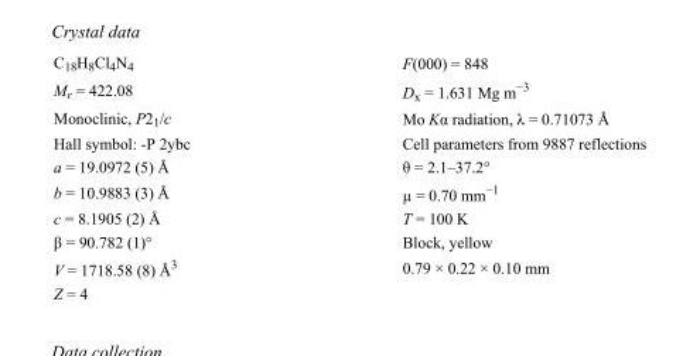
<table><tbody><tr><td>C<sub>18</sub>H<sub>8</sub>Cl<sub>4</sub>N<sub>4</sub></td><td>F(000) = 848</td></tr><tr><td>M<sub>r</sub> = 422.08</td><td>D<sub>x</sub> = 1.631 Mg m<sup>−3</sup></td></tr><tr><td>Monoclinic, P2<sub>1</sub>/c</td><td>Mo Kα radiation, λ = 0.71073 Å</td></tr><tr><td>Hall symbol: -P 2ybc</td><td>Cell parameters from 9887 reflections</td></tr><tr><td>a = 19.0972 (5) Å</td><td>θ = 2.1–37.2°</td></tr><tr><td>b = 10.9883 (3) Å</td><td>µ = 0.70 mm<sup>−1</sup></td></tr><tr><td>c = 8.1905 (2) Å</td><td>T = 100 K</td></tr><tr><td>β = 90.782 (1)°</td><td>Block, yellow</td></tr><tr><td>V = 1718.58 (8) Å<sup>3</sup></td><td>0.79 × 0.22 × 0.10 mm</td></tr><tr><td>Z = 4</td><td></td></tr></tbody></table>